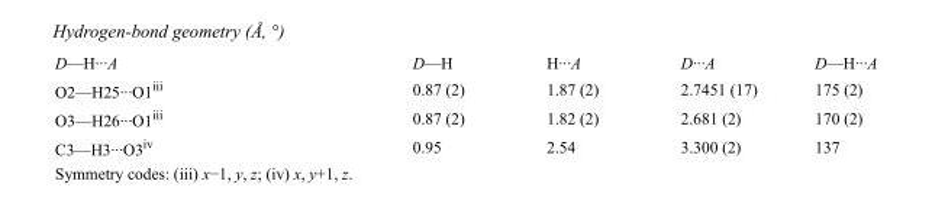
<table><tbody><tr><td>D—H···A</td><td>D—H</td><td>H···A</td><td>D···A</td><td>D—H···A</td></tr><tr><td>O2—H25···O1<sup>iii</sup></td><td>0.87 (2)</td><td>1.87 (2)</td><td>2.7451 (17)</td><td>175 (2)</td></tr><tr><td>O3—H26···O1<sup>iii</sup></td><td>0.87 (2)</td><td>1.82 (2)</td><td>2.681 (2)</td><td>170 (2)</td></tr><tr><td>C3—H3···O3<sup>iv</sup></td><td>0.95</td><td>2.54</td><td>3.300 (2)</td><td>137</td></tr></tbody></table>